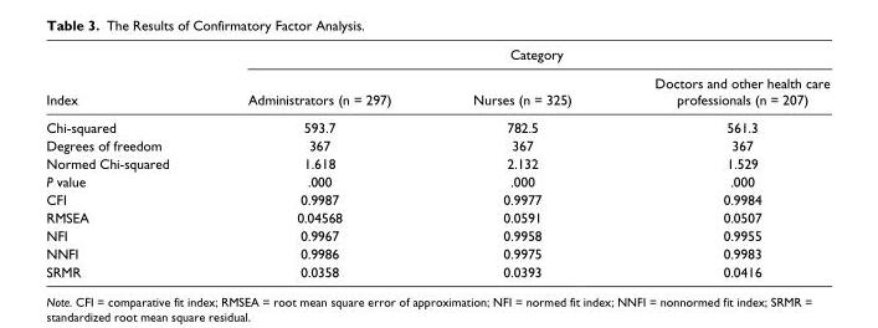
<table><thead><tr><td rowspan="2">Index</td><td colspan="3">Category</td></tr><tr><td>Administrators (n = 297)</td><td>Nurses (n = 325)</td><td>Doctors and other health care professionals (n = 207)</td></tr></thead><tbody><tr><td>Chi-squared</td><td>593.7</td><td>782.5</td><td>561.3</td></tr><tr><td>Degrees of freedom</td><td>367</td><td>367</td><td>367</td></tr><tr><td>Normed Chi-squared</td><td>1.618</td><td>2.132</td><td>1.529</td></tr><tr><td>P value</td><td>.000</td><td>.000</td><td>.000</td></tr><tr><td>CFI</td><td>0.9987</td><td>0.9977</td><td>0.9984</td></tr><tr><td>RMSEA</td><td>0.04568</td><td>0.0591</td><td>0.0507</td></tr><tr><td>NFI</td><td>0.9967</td><td>0.9958</td><td>0.9955</td></tr><tr><td>NNFI</td><td>0.9986</td><td>0.9975</td><td>0.9983</td></tr><tr><td>SRMR</td><td>0.0358</td><td>0.0393</td><td>0.0416</td></tr></tbody></table>